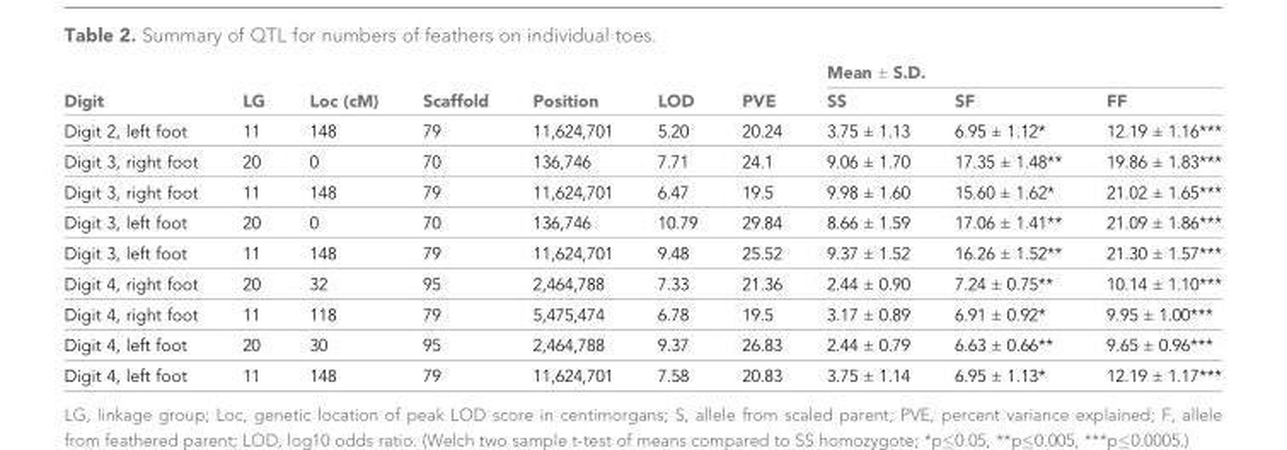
<table><thead><tr><td rowspan="2">Digit</td><td rowspan="2">LG</td><td rowspan="2">Loc (cM)</td><td rowspan="2">Scaffold</td><td rowspan="2">Position</td><td rowspan="2">LOD</td><td rowspan="2">PVE</td><td colspan="3">Mean ± S.D.</td></tr><tr><td>SS</td><td>SF</td><td>FF</td></tr></thead><tbody><tr><td>Digit 2, left foot</td><td>11</td><td>148</td><td>79</td><td>11,624,701</td><td>5.20</td><td>20.24</td><td>3.75 ± 1.13</td><td>6.95 ± 1.12*</td><td>12.19 ± 1.16***</td></tr><tr><td>Digit 3, right foot</td><td>20</td><td>0</td><td>70</td><td>136,746</td><td>7.71</td><td>24.1</td><td>9.06 ± 1.70</td><td>17.35 ± 1.48**</td><td>19.86 ± 1.83***</td></tr><tr><td>Digit 3, right foot</td><td>11</td><td>148</td><td>79</td><td>11,624,701</td><td>6.47</td><td>19.5</td><td>9.98 ± 1.60</td><td>15.60 ± 1.62*</td><td>21.02 ± 1.65***</td></tr><tr><td>Digit 3, left foot</td><td>20</td><td>0</td><td>70</td><td>136,746</td><td>10.79</td><td>29.84</td><td>8.66 ± 1.59</td><td>17.06 ± 1.41**</td><td>21.09 ± 1.86***</td></tr><tr><td>Digit 3, left foot</td><td>11</td><td>148</td><td>79</td><td>11,624,701</td><td>9.48</td><td>25.52</td><td>9.37 ± 1.52</td><td>16.26 ± 1.52**</td><td>21.30 ± 1.57***</td></tr><tr><td>Digit 4, right foot</td><td>20</td><td>32</td><td>95</td><td>2,464,788</td><td>7.33</td><td>21.36</td><td>2.44 ± 0.90</td><td>7.24 ± 0.75**</td><td>10.14 ± 1.10***</td></tr><tr><td>Digit 4, right foot</td><td>11</td><td>118</td><td>79</td><td>5,475,474</td><td>6.78</td><td>19.5</td><td>3.17 ± 0.89</td><td>6.91 ± 0.92*</td><td>9.95 ± 1.00***</td></tr><tr><td>Digit 4, left foot</td><td>20</td><td>30</td><td>95</td><td>2,464,788</td><td>9.37</td><td>26.83</td><td>2.44 ± 0.79</td><td>6.63 ± 0.66**</td><td>9.65 ± 0.96***</td></tr><tr><td>Digit 4, left foot</td><td>11</td><td>148</td><td>79</td><td>11,624,701</td><td>7.58</td><td>20.83</td><td>3.75 ± 1.14</td><td>6.95 ± 1.13*</td><td>12.19 ± 1.17***</td></tr></tbody></table>